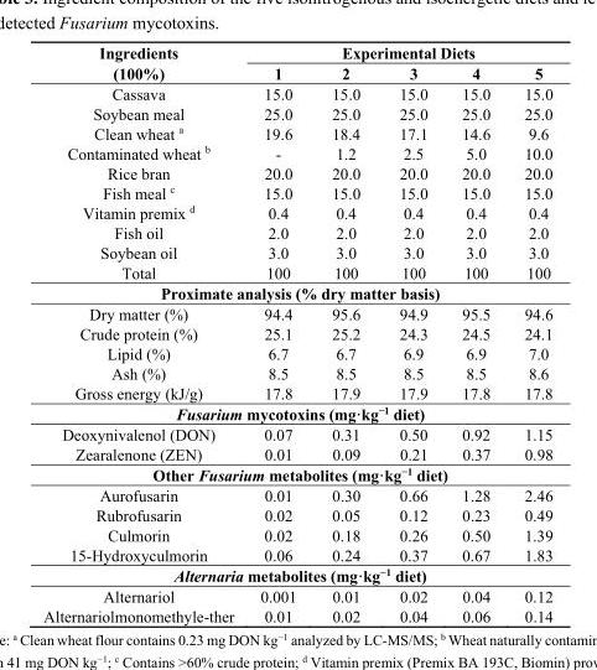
<table><thead><tr><td rowspan="2">Ingredients (100%)</td><td colspan="5">Experimental Diets</td></tr><tr><td>1</td><td>2</td><td>3</td><td>4</td><td>5</td></tr></thead><tbody><tr><td>Cassava</td><td>15.0</td><td>15.0</td><td>15.0</td><td>15.0</td><td>15.0</td></tr><tr><td>Soybean meal</td><td>25.0</td><td>25.0</td><td>25.0</td><td>25.0</td><td>25.0</td></tr><tr><td>Clean wheat <sup>a</sup></td><td>19.6</td><td>18.4</td><td>17.1</td><td>14.6</td><td>9.6</td></tr><tr><td>Contaminated wheat <sup>b</sup></td><td>-</td><td>1.2</td><td>2.5</td><td>5.0</td><td>10.0</td></tr><tr><td>Rice bran</td><td>20.0</td><td>20.0</td><td>20.0</td><td>20.0</td><td>20.0</td></tr><tr><td>Fish meal <sup>c</sup></td><td>15.0</td><td>15.0</td><td>15.0</td><td>15.0</td><td>15.0</td></tr><tr><td>Vitamin premix <sup>d</sup></td><td>0.4</td><td>0.4</td><td>0.4</td><td>0.4</td><td>0.4</td></tr><tr><td>Fish oil</td><td>2.0</td><td>2.0</td><td>2.0</td><td>2.0</td><td>2.0</td></tr><tr><td>Soybean oil</td><td>3.0</td><td>3.0</td><td>3.0</td><td>3.0</td><td>3.0</td></tr><tr><td>Total</td><td>100</td><td>100</td><td>100</td><td>100</td><td>100</td></tr><tr><td colspan="6">Proximate analysis (% dry matter basis)</td></tr><tr><td>Dry matter (%)</td><td>94.4</td><td>95.6</td><td>94.9</td><td>95.5</td><td>94.6</td></tr><tr><td>Crude protein (%)</td><td>25.1</td><td>25.2</td><td>24.3</td><td>24.5</td><td>24.1</td></tr><tr><td>Lipid (%)</td><td>6.7</td><td>6.7</td><td>6.9</td><td>6.9</td><td>7.0</td></tr><tr><td>Ash (%)</td><td>8.5</td><td>8.5</td><td>8.5</td><td>8.5</td><td>8.6</td></tr><tr><td>Gross energy (kJ/g)</td><td>17.8</td><td>17.9</td><td>17.9</td><td>17.8</td><td>17.8</td></tr><tr><td colspan="6">Fusarium mycotoxins (mg·kg<sup>−1</sup> diet)</td></tr><tr><td>Deoxynivalenol (DON)</td><td>0.07</td><td>0.31</td><td>0.50</td><td>0.92</td><td>1.15</td></tr><tr><td>Zearalenone (ZEN)</td><td>0.01</td><td>0.09</td><td>0.21</td><td>0.37</td><td>0.98</td></tr><tr><td colspan="6">Other Fusarium metabolites (mg·kg<sup>−1</sup> diet)</td></tr><tr><td>Aurofusarin</td><td>0.01</td><td>0.30</td><td>0.66</td><td>1.28</td><td>2.46</td></tr><tr><td>Rubrofusarin</td><td>0.02</td><td>0.05</td><td>0.12</td><td>0.23</td><td>0.49</td></tr><tr><td>Culmorin</td><td>0.02</td><td>0.18</td><td>0.26</td><td>0.50</td><td>1.39</td></tr><tr><td>15-Hydroxyculmorin</td><td>0.06</td><td>0.24</td><td>0.37</td><td>0.67</td><td>1.83</td></tr><tr><td colspan="6">Alternaria metabolites (mg·kg<sup>−1</sup> diet)</td></tr><tr><td>Alternariol</td><td>0.001</td><td>0.01</td><td>0.02</td><td>0.04</td><td>0.12</td></tr><tr><td>Alternariolmonomethyle-ther</td><td>0.01</td><td>0.02</td><td>0.04</td><td>0.06</td><td>0.14</td></tr></tbody></table>